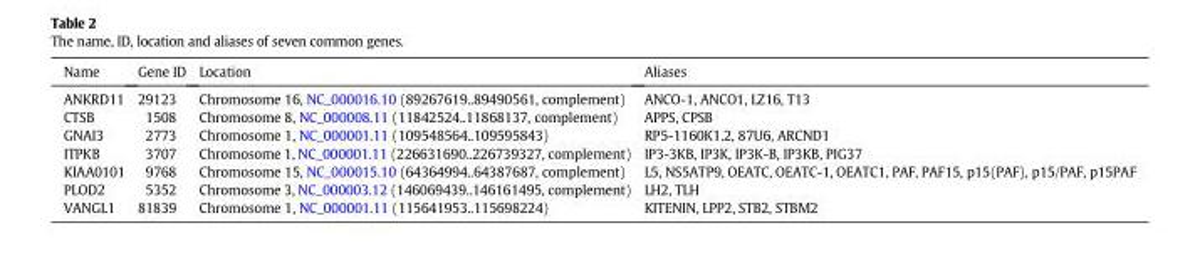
<table><thead><tr><td>Name</td><td>Gene ID</td><td>Location</td><td>Aliases</td></tr></thead><tbody><tr><td>ANKRD11</td><td>29123</td><td>Chromosome 16, NC_000016.10 (89267619..89490561, complement)</td><td>ANCO-1, ANCO1, LZ16, T13</td></tr><tr><td>CTSB</td><td>1508</td><td>Chromosome 8, NC_000008.11 (11842524..11868137, complement)</td><td>APPS, CPSB</td></tr><tr><td>GNAI3</td><td>2773</td><td>Chromosome 1, NC_000001.11 (109548564..109595843)</td><td>RP5-1160K1.2, 87U6, ARCND1</td></tr><tr><td>ITPKB</td><td>3707</td><td>Chromosome 1, NC_000001.11 (226631690..226739327, complement)</td><td>IP3-3KB, IP3K, IP3K-B, IP3KB, PIG37</td></tr><tr><td>KIAA0101</td><td>9768</td><td>Chromosome 15, NC_000015.10 (64364994..64387687, complement)</td><td>L5, NS5ATP9, OEATC, OEATC-1, OEATC1, PAF, PAF15, p15(PAF), p15/PAF, p15PAF</td></tr><tr><td>PLOD2</td><td>5352</td><td>Chromosome 3, NC_000003.12 (146069439..146161495, complement)</td><td>LH2, TLH</td></tr><tr><td>VANGL1</td><td>81839</td><td>Chromosome 1, NC_000001.11 (115641953..115698224)</td><td>KITENIN, LPP2, STB2, STBM2</td></tr></tbody></table>